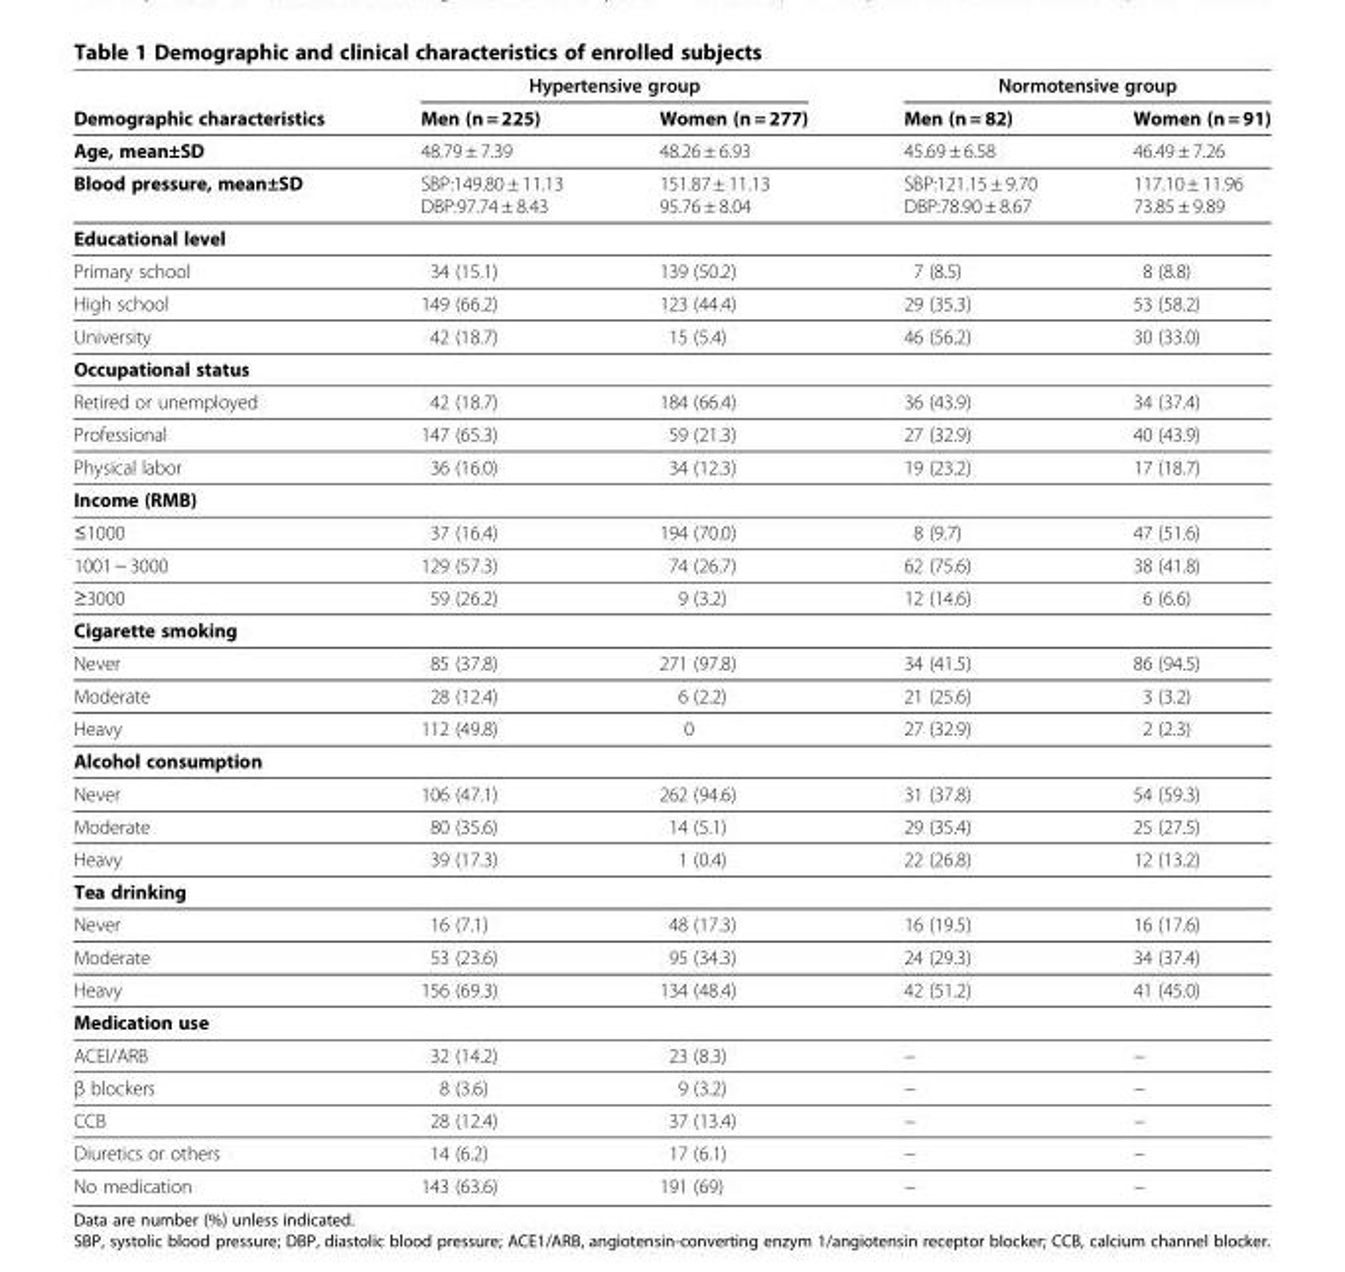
<table><thead><tr><td rowspan="2">Demographic characteristics</td><td colspan="2">Hypertensive group</td><td colspan="2">Normotensive group</td></tr><tr><td>Men (n = 225)</td><td>Women (n = 277)</td><td>Men (n = 82)</td><td>Women (n = 91)</td></tr></thead><tbody><tr><td>Age, mean±SD</td><td>48.79 ± 7.39</td><td>48.26 ± 6.93</td><td>45.69 ± 6.58</td><td>46.49 ± 7.26</td></tr><tr><td>Blood pressure, mean±SD</td><td>SBP:149.80 ± 11.13 DBP:97.74 ± 8.43</td><td>151.87 ± 11.13 95.76 ± 8.04</td><td>SBP:121.15 ± 9.70 DBP:78.90 ± 8.67</td><td>117.10 ± 11.96 73.85 ± 9.89</td></tr><tr><td colspan="5">Educational level</td></tr><tr><td>Primary school</td><td>34 (15.1)</td><td>139 (50.2)</td><td>7 (8.5)</td><td>8 (8.8)</td></tr><tr><td>High school</td><td>149 (66.2)</td><td>123 (44.4)</td><td>29 (35.3)</td><td>53 (58.2)</td></tr><tr><td>University</td><td>42 (18.7)</td><td>15 (5.4)</td><td>46 (56.2)</td><td>30 (33.0)</td></tr><tr><td colspan="5">Occupational status</td></tr><tr><td>Retired or unemployed</td><td>42 (18.7)</td><td>184 (66.4)</td><td>36 (43.9)</td><td>34 (37.4)</td></tr><tr><td>Professional</td><td>147 (65.3)</td><td>59 (21.3)</td><td>27 (32.9)</td><td>40 (43.9)</td></tr><tr><td>Physical labor</td><td>36 (16.0)</td><td>34 (12.3)</td><td>19 (23.2)</td><td>17 (18.7)</td></tr><tr><td colspan="5">Income (RMB)</td></tr><tr><td>≤1000</td><td>37 (16.4)</td><td>194 (70.0)</td><td>8 (9.7)</td><td>47 (51.6)</td></tr><tr><td>1001 ~ 3000</td><td>129 (57.3)</td><td>74 (26.7)</td><td>62 (75.6)</td><td>38 (41.8)</td></tr><tr><td>≥3000</td><td>59 (26.2)</td><td>9 (3.2)</td><td>12 (14.6)</td><td>6 (6.6)</td></tr><tr><td colspan="5">Cigarette smoking</td></tr><tr><td>Never</td><td>85 (37.8)</td><td>271 (97.8)</td><td>34 (41.5)</td><td>86 (94.5)</td></tr><tr><td>Moderate</td><td>28 (12.4)</td><td>6 (2.2)</td><td>21 (25.6)</td><td>3 (3.2)</td></tr><tr><td>Heavy</td><td>112 (49.8)</td><td>0</td><td>27 (32.9)</td><td>2 (2.3)</td></tr><tr><td colspan="5">Alcohol consumption</td></tr><tr><td>Never</td><td>106 (47.1)</td><td>262 (94.6)</td><td>31 (37.8)</td><td>54 (59.3)</td></tr><tr><td>Moderate</td><td>80 (35.6)</td><td>14 (5.1)</td><td>29 (35.4)</td><td>25 (27.5)</td></tr><tr><td>Heavy</td><td>39 (17.3)</td><td>1 (0.4)</td><td>22 (26.8)</td><td>12 (13.2)</td></tr><tr><td colspan="5">Tea drinking</td></tr><tr><td>Never</td><td>16 (7.1)</td><td>48 (17.3)</td><td>16 (19.5)</td><td>16 (17.6)</td></tr><tr><td>Moderate</td><td>53 (23.6)</td><td>95 (34.3)</td><td>24 (29.3)</td><td>34 (37.4)</td></tr><tr><td>Heavy</td><td>156 (69.3)</td><td>134 (48.4)</td><td>42 (51.2)</td><td>41 (45.0)</td></tr><tr><td colspan="5">Medication use</td></tr><tr><td>ACEI/ARB</td><td>32 (14.2)</td><td>23 (8.3)</td><td>−</td><td>−</td></tr><tr><td>β blockers</td><td>8 (3.6)</td><td>9 (3.2)</td><td>−</td><td>−</td></tr><tr><td>CCB</td><td>28 (12.4)</td><td>37 (13.4)</td><td>−</td><td>−</td></tr><tr><td>Diuretics or others</td><td>14 (6.2)</td><td>17 (6.1)</td><td>−</td><td>−</td></tr><tr><td>No medication</td><td>143 (63.6)</td><td>191 (69)</td><td>−</td><td>−</td></tr></tbody></table>